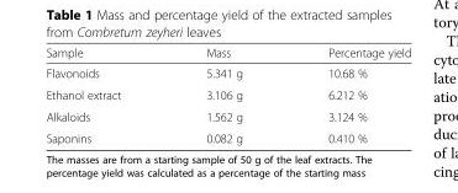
<table><thead><tr><td>Sample</td><td>Mass</td><td>Percentage yield</td></tr></thead><tbody><tr><td>Flavonoids</td><td>5.341 g</td><td>10.68 %</td></tr><tr><td>Ethanol extract</td><td>3.106 g</td><td>6.212 %</td></tr><tr><td>Alkaloids</td><td>1.562 g</td><td>3.124 %</td></tr><tr><td>Saponins</td><td>0.082 g</td><td>0.410 %</td></tr></tbody></table>